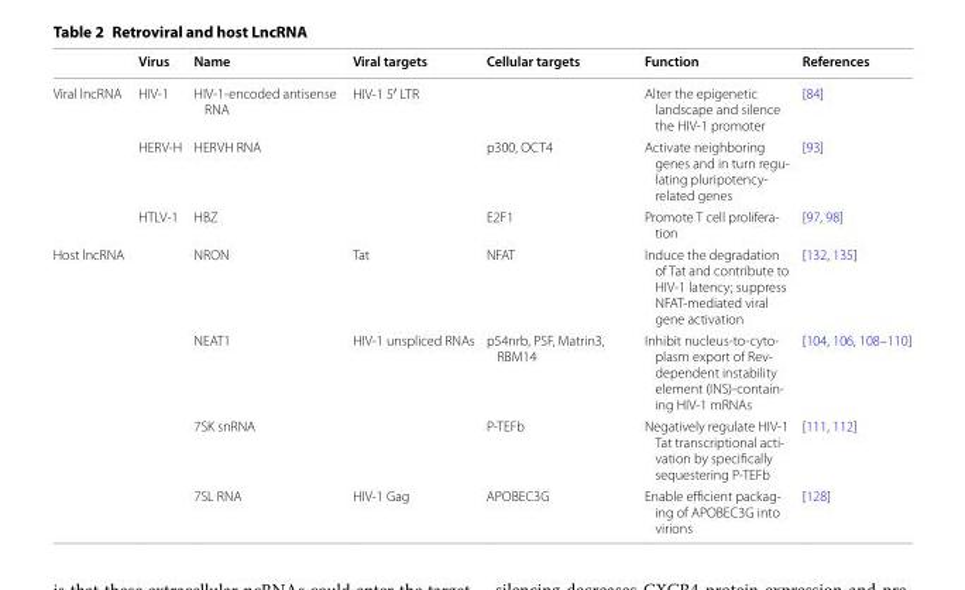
<table><thead><tr><td></td><td>Virus</td><td>Name</td><td>Viral targets</td><td>Cellular targets</td><td>Function</td><td>References</td></tr></thead><tbody><tr><td rowspan="3">Viral lncRNA</td><td>HIV-1</td><td>HIV-1-encoded antisense RNA</td><td>HIV-1 5′ LTR</td><td></td><td>Alter the epigenetic landscape and silence the HIV-1 promoter</td><td>[84]</td></tr><tr><td>HERV-H</td><td>HERVH RNA</td><td></td><td>p300, OCT4</td><td>Activate neighboring genes and in turn regu- lating pluripotency- related genes</td><td>[93]</td></tr><tr><td>HTLV-1</td><td>HBZ</td><td></td><td>E2F1</td><td>Promote T cell prolifera- tion</td><td>[97, 98]</td></tr><tr><td rowspan="4">Host lncRNA</td><td></td><td>NRON</td><td>Tat</td><td>NFAT</td><td>Induce the degradation of Tat and contribute to HIV-1 latency; suppress NFAT-mediated viral gene activation</td><td>[132, 135]</td></tr><tr><td></td><td>NEAT1</td><td>HIV-1 unspliced RNAs</td><td>p54nrb, PSF, Matrin3, RBM14</td><td>Inhibit nucleus-to-cyto- plasm export of Rev- dependent instability element (INS)-contain- ing HIV-1 mRNAs</td><td>[104, 106, 108–110]</td></tr><tr><td></td><td>7SK snRNA</td><td></td><td>P-TEFb</td><td>Negatively regulate HIV-1 Tat transcriptional acti- vation by specifically sequestering P-TEFb</td><td>[111, 112]</td></tr><tr><td></td><td>7SL RNA</td><td>HIV-1 Gag</td><td>APOBEC3G</td><td>Enable efficient packag- ing of APOBEC3G into virions</td><td>[128]</td></tr></tbody></table>